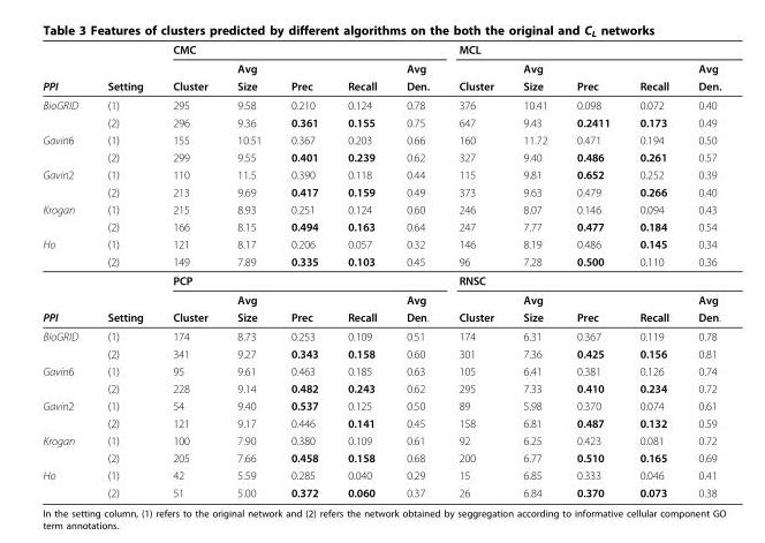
<table><thead><tr><td rowspan="3">PPI</td><td rowspan="3">Setting</td><td colspan="5">CMC</td><td colspan="5">MCL</td></tr><tr><td rowspan="2">Cluster</td><td rowspan="2">Avg Size</td><td rowspan="2">Prec</td><td rowspan="2">Recall</td><td rowspan="2">Avg Den.</td><td rowspan="2">Cluster</td><td rowspan="2">Avg Size</td><td rowspan="2">Prec</td><td rowspan="2">Recall</td><td rowspan="2">Avg Den.</td></tr><tr></tr></thead><tbody><tr><td rowspan="2">BioGRID</td><td>(1)</td><td>295</td><td>9.58</td><td>0.210</td><td>0.124</td><td>0.78</td><td>376</td><td>10.41</td><td>0.098</td><td>0.072</td><td>0.40</td></tr><tr><td>(2)</td><td>296</td><td>9.36</td><td>0.361</td><td>0.155</td><td>0.75</td><td>647</td><td>9.43</td><td>0.2411</td><td>0.173</td><td>0.49</td></tr><tr><td rowspan="2">Gavin6</td><td>(1)</td><td>155</td><td>10.51</td><td>0.367</td><td>0.203</td><td>0.66</td><td>160</td><td>11.72</td><td>0.471</td><td>0.194</td><td>0.50</td></tr><tr><td>(2)</td><td>299</td><td>9.55</td><td>0.401</td><td>0.239</td><td>0.62</td><td>327</td><td>9.40</td><td>0.486</td><td>0.261</td><td>0.57</td></tr><tr><td rowspan="2">Gavin2</td><td>(1)</td><td>110</td><td>11.5</td><td>0.390</td><td>0.118</td><td>0.44</td><td>115</td><td>9.81</td><td>0.652</td><td>0.252</td><td>0.39</td></tr><tr><td>(2)</td><td>213</td><td>9.69</td><td>0.417</td><td>0.159</td><td>0.49</td><td>373</td><td>9.63</td><td>0.479</td><td>0.266</td><td>0.40</td></tr><tr><td rowspan="2">Krogan</td><td>(1)</td><td>215</td><td>8.93</td><td>0.251</td><td>0.124</td><td>0.60</td><td>246</td><td>8.07</td><td>0.146</td><td>0.094</td><td>0.43</td></tr><tr><td>(2)</td><td>166</td><td>8.15</td><td>0.494</td><td>0.163</td><td>0.64</td><td>247</td><td>7.77</td><td>0.477</td><td>0.184</td><td>0.54</td></tr><tr><td rowspan="4">Ho</td><td>(1)</td><td>121</td><td>8.17</td><td>0.206</td><td>0.057</td><td>0.32</td><td>146</td><td>8.19</td><td>0.486</td><td>0.145</td><td>0.34</td></tr><tr><td>(2)</td><td>149</td><td>7.89</td><td>0.335</td><td>0.103</td><td>0.45</td><td>96</td><td>7.28</td><td>0.500</td><td>0.110</td><td>0.36</td></tr><tr><td></td><td colspan="5">PCP</td><td colspan="5">RNSC</td></tr><tr><td></td><td></td><td>Avg</td><td></td><td></td><td>Avg</td><td></td><td>Avg</td><td></td><td></td><td>Avg</td></tr><tr><td>PPI</td><td>Setting</td><td>Cluster</td><td>Size</td><td>Prec</td><td>Recall</td><td>Den.</td><td>Cluster</td><td>Size</td><td>Prec</td><td>Recall</td><td>Den.</td></tr><tr><td rowspan="2">BioGRID</td><td>(1)</td><td>174</td><td>8.73</td><td>0.253</td><td>0.109</td><td>0.51</td><td>174</td><td>6.31</td><td>0.367</td><td>0.119</td><td>0.78</td></tr><tr><td>(2)</td><td>341</td><td>9.27</td><td>0.343</td><td>0.158</td><td>0.60</td><td>301</td><td>7.36</td><td>0.425</td><td>0.156</td><td>0.81</td></tr><tr><td rowspan="2">Gavin6</td><td>(1)</td><td>95</td><td>9.61</td><td>0.463</td><td>0.185</td><td>0.63</td><td>105</td><td>6.41</td><td>0.381</td><td>0.126</td><td>0.74</td></tr><tr><td>(2)</td><td>228</td><td>9.14</td><td>0.482</td><td>0.243</td><td>0.62</td><td>295</td><td>7.33</td><td>0.410</td><td>0.234</td><td>0.72</td></tr><tr><td rowspan="2">Gavin2</td><td>(1)</td><td>54</td><td>9.40</td><td>0.537</td><td>0.125</td><td>0.50</td><td>89</td><td>5.98</td><td>0.370</td><td>0.074</td><td>0.61</td></tr><tr><td>(2)</td><td>121</td><td>9.17</td><td>0.446</td><td>0.141</td><td>0.45</td><td>158</td><td>6.81</td><td>0.487</td><td>0.132</td><td>0.59</td></tr><tr><td rowspan="2">Krogan</td><td>(1)</td><td>100</td><td>7.90</td><td>0.380</td><td>0.109</td><td>0.61</td><td>92</td><td>6.25</td><td>0.423</td><td>0.081</td><td>0.72</td></tr><tr><td>(2)</td><td>205</td><td>7.66</td><td>0.458</td><td>0.158</td><td>0.68</td><td>200</td><td>6.77</td><td>0.510</td><td>0.165</td><td>0.69</td></tr><tr><td rowspan="2">Ho</td><td>(1)</td><td>42</td><td>5.59</td><td>0.285</td><td>0.040</td><td>0.29</td><td>15</td><td>6.85</td><td>0.333</td><td>0.046</td><td>0.41</td></tr><tr><td>(2)</td><td>51</td><td>5.00</td><td>0.372</td><td>0.060</td><td>0.37</td><td>26</td><td>6.84</td><td>0.370</td><td>0.073</td><td>0.38</td></tr></tbody></table>